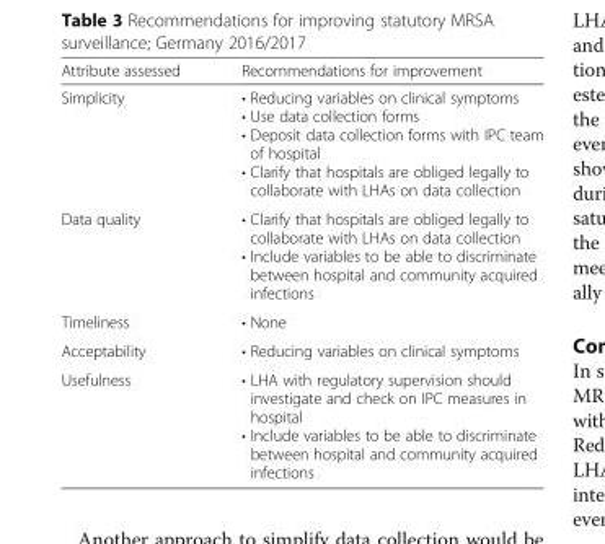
<table><thead><tr><td>Attribute assessed</td><td>Recommendations for improvement</td></tr></thead><tbody><tr><td>Simplicity</td><td>• Reducing variables on clinical symptoms • Use data collection forms • Deposit data collection forms with IPC team of hospital • Clarify that hospitals are obliged legally to collaborate with LHAs on data collection</td></tr><tr><td>Data quality</td><td>• Clarify that hospitals are obliged legally to collaborate with LHAs on data collection • Include variables to be able to discriminate between hospital and community acquired infections</td></tr><tr><td>Timeliness</td><td>• None</td></tr><tr><td>Acceptability</td><td>• Reducing variables on clinical symptoms</td></tr><tr><td>Usefulness</td><td>• LHA with regulatory supervision should investigate and check on IPC measures in hospital • Include variables to be able to discriminate between hospital and community acquired infections</td></tr></tbody></table>